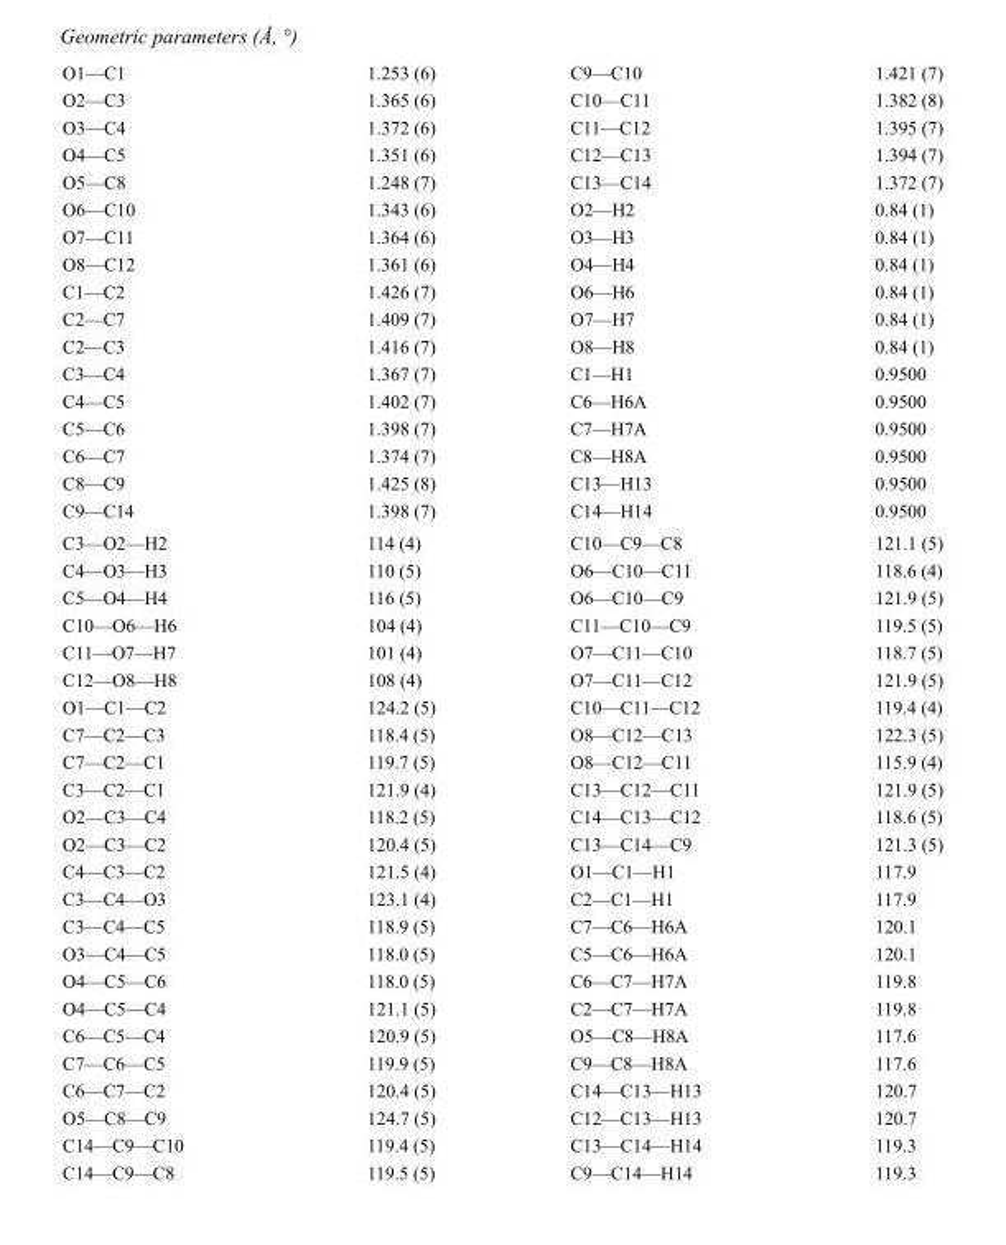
<table><tbody><tr><td>O1—C1</td><td>1.253 (6)</td><td>C9—C10</td><td>1.421 (7)</td></tr><tr><td>O2—C3</td><td>1.365 (6)</td><td>C10—C11</td><td>1.382 (8)</td></tr><tr><td>O3—C4</td><td>1.372 (6)</td><td>C11—C12</td><td>1.395 (7)</td></tr><tr><td>O4—C5</td><td>1.351 (6)</td><td>C12—C13</td><td>1.394 (7)</td></tr><tr><td>O5—C8</td><td>1.248 (7)</td><td>C13—C14</td><td>1.372 (7)</td></tr><tr><td>O6—C10</td><td>1.343 (6)</td><td>O2—H2</td><td>0.84 (1)</td></tr><tr><td>O7—C11</td><td>1.364 (6)</td><td>O3—H3</td><td>0.84 (1)</td></tr><tr><td>O8—C12</td><td>1.361 (6)</td><td>O4—H4</td><td>0.84 (1)</td></tr><tr><td>C1—C2</td><td>1.426 (7)</td><td>O6—H6</td><td>0.84 (1)</td></tr><tr><td>C2—C7</td><td>1.409 (7)</td><td>O7—H7</td><td>0.84 (1)</td></tr><tr><td>C2—C3</td><td>1.416 (7)</td><td>O8—H8</td><td>0.84 (1)</td></tr><tr><td>C3—C4</td><td>1.367 (7)</td><td>C1—H1</td><td>0.9500</td></tr><tr><td>C4—C5</td><td>1.402 (7)</td><td>C6—H6A</td><td>0.9500</td></tr><tr><td>C5—C6</td><td>1.398 (7)</td><td>C7—H7A</td><td>0.9500</td></tr><tr><td>C6—C7</td><td>1.374 (7)</td><td>C8—H8A</td><td>0.9500</td></tr><tr><td>C8—C9</td><td>1.425 (8)</td><td>C13—H13</td><td>0.9500</td></tr><tr><td>C9—C14</td><td>1.398 (7)</td><td>C14—H14</td><td>0.9500</td></tr><tr><td>C3—O2—H2</td><td>114 (4)</td><td>C10—C9—C8</td><td>121.1 (5)</td></tr><tr><td>C4—O3—H3</td><td>110 (5)</td><td>O6—C10—C11</td><td>118.6 (4)</td></tr><tr><td>C5—O4—H4</td><td>116 (5)</td><td>O6—C10—C9</td><td>121.9 (5)</td></tr><tr><td>C10—O6—H6</td><td>104 (4)</td><td>C11—C10—C9</td><td>119.5 (5)</td></tr><tr><td>C11—O7—H7</td><td>101 (4)</td><td>O7—C11—C10</td><td>118.7 (5)</td></tr><tr><td>C12—O8—H8</td><td>108 (4)</td><td>O7—C11—C12</td><td>121.9 (5)</td></tr><tr><td>O1—C1—C2</td><td>124.2 (5)</td><td>C10—C11—C12</td><td>119.4 (4)</td></tr><tr><td>C7—C2—C3</td><td>118.4 (5)</td><td>O8—C12—C13</td><td>122.3 (5)</td></tr><tr><td>C7—C2—C1</td><td>119.7 (5)</td><td>O8—C12—C11</td><td>115.9 (4)</td></tr><tr><td>C3—C2—C1</td><td>121.9 (4)</td><td>C13—C12—C11</td><td>121.9 (5)</td></tr><tr><td>O2—C3—C4</td><td>118.2 (5)</td><td>C14—C13—C12</td><td>118.6 (5)</td></tr><tr><td>O2—C3—C2</td><td>120.4 (5)</td><td>C13—C14—C9</td><td>121.3 (5)</td></tr><tr><td>C4—C3—C2</td><td>121.5 (4)</td><td>O1—C1—H1</td><td>117.9</td></tr><tr><td>C3—C4—O3</td><td>123.1 (4)</td><td>C2—C1—H1</td><td>117.9</td></tr><tr><td>C3—C4—C5</td><td>118.9 (5)</td><td>C7—C6—H6A</td><td>120.1</td></tr><tr><td>O3—C4—C5</td><td>118.0 (5)</td><td>C5—C6—H6A</td><td>120.1</td></tr><tr><td>O4—C5—C6</td><td>118.0 (5)</td><td>C6—C7—H7A</td><td>119.8</td></tr><tr><td>O4—C5—C4</td><td>121.1 (5)</td><td>C2—C7—H7A</td><td>119.8</td></tr><tr><td>C6—C5—C4</td><td>120.9 (5)</td><td>O5—C8—H8A</td><td>117.6</td></tr><tr><td>C7—C6—C5</td><td>119.9 (5)</td><td>C9—C8—H8A</td><td>117.6</td></tr><tr><td>C6—C7—C2</td><td>120.4 (5)</td><td>C14—C13—H13</td><td>120.7</td></tr><tr><td>O5—C8—C9</td><td>124.7 (5)</td><td>C12—C13—H13</td><td>120.7</td></tr><tr><td>C14—C9—C10</td><td>119.4 (5)</td><td>C13—C14—H14</td><td>119.3</td></tr><tr><td>C14—C9—C8</td><td>119.5 (5)</td><td>C9—C14—H14</td><td>119.3</td></tr></tbody></table>